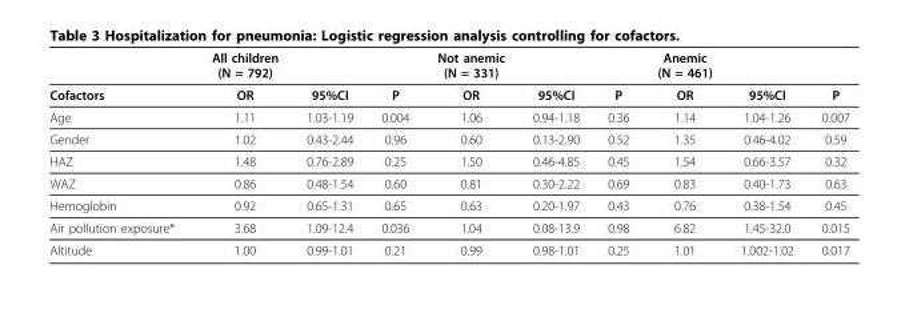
<table><thead><tr><td></td><td>All children (N = 792)</td><td></td><td></td><td>Not anemic (N = 331)</td><td></td><td></td><td>Anemic (N = 461)</td><td></td><td></td></tr></thead><tbody><tr><td>Cofactors</td><td>OR</td><td>95%CI</td><td>P</td><td>OR</td><td>95%CI</td><td>P</td><td>OR</td><td>95%CI</td><td>P</td></tr><tr><td>Age</td><td>1.11</td><td>1.03-1.19</td><td>0.004</td><td>1.06</td><td>0.94-1.18</td><td>0.36</td><td>1.14</td><td>1.04-1.26</td><td>0.007</td></tr><tr><td>Gender</td><td>1.02</td><td>0.43-2.44</td><td>0.96</td><td>0.60</td><td>0.13-2.90</td><td>0.52</td><td>1.35</td><td>0.46-4.02</td><td>0.59</td></tr><tr><td>HAZ</td><td>1.48</td><td>0.76-2.89</td><td>0.25</td><td>1.50</td><td>0.46-4.85</td><td>0.45</td><td>1.54</td><td>0.66-3.57</td><td>0.32</td></tr><tr><td>WAZ</td><td>0.86</td><td>0.48-1.54</td><td>0.60</td><td>0.81</td><td>0.30-2.22</td><td>0.69</td><td>0.83</td><td>0.40-1.73</td><td>0.63</td></tr><tr><td>Hemoglobin</td><td>0.92</td><td>0.65-1.31</td><td>0.65</td><td>0.63</td><td>0.20-1.97</td><td>0.43</td><td>0.76</td><td>0.38-1.54</td><td>0.45</td></tr><tr><td>Air pollution exposure*</td><td>3.68</td><td>1.09-12.4</td><td>0.036</td><td>1.04</td><td>0.08-13.9</td><td>0.98</td><td>6.82</td><td>1.45-32.0</td><td>0.015</td></tr><tr><td>Altitude</td><td>1.00</td><td>0.99-1.01</td><td>0.21</td><td>0.99</td><td>0.98-1.01</td><td>0.25</td><td>1.01</td><td>1.002-1.02</td><td>0.017</td></tr></tbody></table>